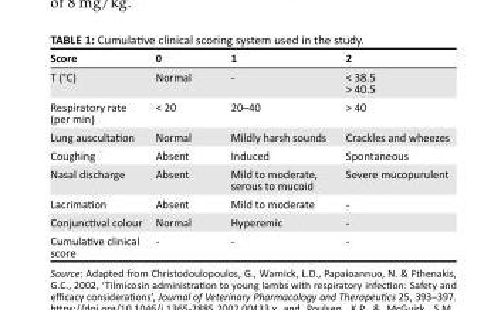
<table><thead><tr><td>Score</td><td>0</td><td>1</td><td>2</td></tr></thead><tbody><tr><td>T (°C)</td><td>Normal</td><td>-</td><td>&lt; 38.5 &gt; 40.5</td></tr><tr><td>Respiratory rate (per min)</td><td>&lt; 20</td><td>20–40</td><td>&gt; 40</td></tr><tr><td>Lung auscultation</td><td>Normal</td><td>Mildly harsh sounds</td><td>Crackles and wheezes</td></tr><tr><td>Coughing</td><td>Absent</td><td>Induced</td><td>Spontaneous</td></tr><tr><td>Nasal discharge</td><td>Absent</td><td>Mild to moderate, serous to mucoid</td><td>Severe mucopurulent</td></tr><tr><td>Lacrimation</td><td>Absent</td><td>Mild to moderate</td><td>-</td></tr><tr><td>Conjunctival colour</td><td>Normal</td><td>Hyperemic</td><td>-</td></tr><tr><td>Cumulative clinical score</td><td>-</td><td>-</td><td>-</td></tr></tbody></table>